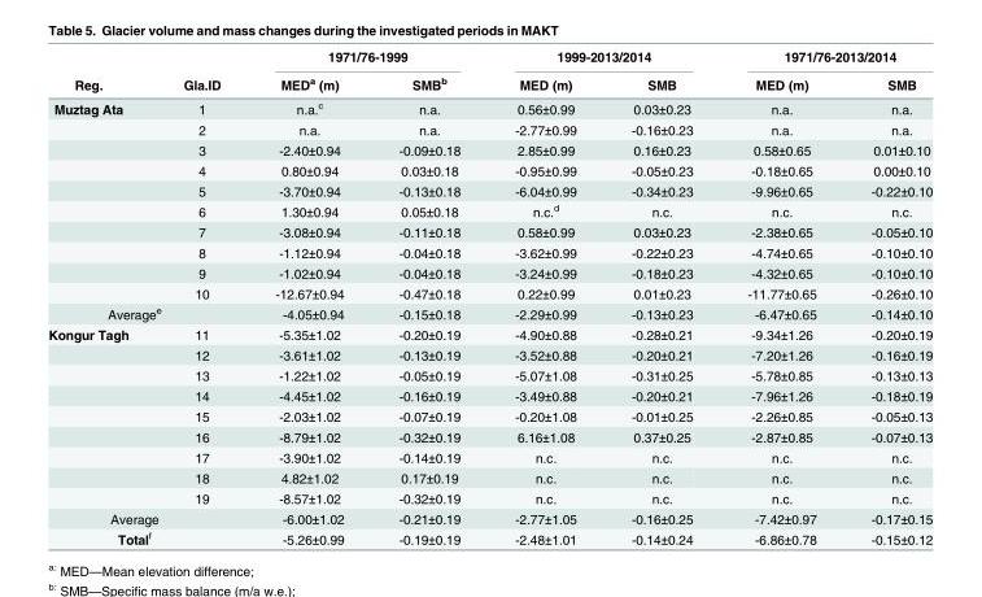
<table><thead><tr><td rowspan="2">Reg.</td><td rowspan="2">Gla.ID</td><td colspan="2">1971/76-1999</td><td colspan="2">1999-2013/2014</td><td colspan="2">1971/76-2013/2014</td></tr><tr><td>MED<sup>a</sup> (m)</td><td>SMB<sup>b</sup></td><td>MED (m)</td><td>SMB</td><td>MED (m)</td><td>SMB</td></tr></thead><tbody><tr><td rowspan="10">Muztag Ata</td><td>1</td><td>n.a.<sup>c</sup></td><td>n.a.</td><td>0.56±0.99</td><td>0.03±0.23</td><td>n.a.</td><td>n.a.</td></tr><tr><td>2</td><td>n.a.</td><td>n.a.</td><td>-2.77±0.99</td><td>-0.16±0.23</td><td>n.a.</td><td>n.a.</td></tr><tr><td>3</td><td>-2.40±0.94</td><td>-0.09±0.18</td><td>2.85±0.99</td><td>0.16±0.23</td><td>0.58±0.65</td><td>0.01±0.10</td></tr><tr><td>4</td><td>0.80±0.94</td><td>0.03±0.18</td><td>-0.95±0.99</td><td>-0.05±0.23</td><td>-0.18±0.65</td><td>0.00±0.10</td></tr><tr><td>5</td><td>-3.70±0.94</td><td>-0.13±0.18</td><td>-6.04±0.99</td><td>-0.34±0.23</td><td>-9.96±0.65</td><td>-0.22±0.10</td></tr><tr><td>6</td><td>1.30±0.94</td><td>0.05±0.18</td><td>n.c.<sup>d</sup></td><td>n.c.</td><td>n.c.</td><td>n.c.</td></tr><tr><td>7</td><td>-3.08±0.94</td><td>-0.11±0.18</td><td>0.58±0.99</td><td>0.03±0.23</td><td>-2.38±0.65</td><td>-0.05±0.10</td></tr><tr><td>8</td><td>-1.12±0.94</td><td>-0.04±0.18</td><td>-3.62±0.99</td><td>-0.22±0.23</td><td>-4.74±0.65</td><td>-0.10±0.10</td></tr><tr><td>9</td><td>-1.02±0.94</td><td>-0.04±0.18</td><td>-3.24±0.99</td><td>-0.18±0.23</td><td>-4.32±0.65</td><td>-0.10±0.10</td></tr><tr><td>10</td><td>-12.67±0.94</td><td>-0.47±0.18</td><td>0.22±0.99</td><td>0.01±0.23</td><td>-11.77±0.65</td><td>-0.26±0.10</td></tr><tr><td colspan="2">Average<sup>e</sup></td><td>-4.05±0.94</td><td>-0.15±0.18</td><td>-2.29±0.99</td><td>-0.13±0.23</td><td>-6.47±0.65</td><td>-0.14±0.10</td></tr><tr><td rowspan="9">Kongur Tagh</td><td>11</td><td>-5.35±1.02</td><td>-0.20±0.19</td><td>-4.90±0.88</td><td>-0.28±0.21</td><td>-9.34±1.26</td><td>-0.20±0.19</td></tr><tr><td>12</td><td>-3.61±1.02</td><td>-0.13±0.19</td><td>-3.52±0.88</td><td>-0.20±0.21</td><td>-7.20±1.26</td><td>-0.16±0.19</td></tr><tr><td>13</td><td>-1.22±1.02</td><td>-0.05±0.19</td><td>-5.07±1.08</td><td>-0.31±0.25</td><td>-5.78±0.85</td><td>-0.13±0.13</td></tr><tr><td>14</td><td>-4.45±1.02</td><td>-0.16±0.19</td><td>-3.49±0.88</td><td>-0.20±0.21</td><td>-7.96±1.26</td><td>-0.18±0.19</td></tr><tr><td>15</td><td>-2.03±1.02</td><td>-0.07±0.19</td><td>-0.20±1.08</td><td>-0.01±0.25</td><td>-2.26±0.85</td><td>-0.05±0.13</td></tr><tr><td>16</td><td>-8.79±1.02</td><td>-0.32±0.19</td><td>6.16±1.08</td><td>0.37±0.25</td><td>-2.87±0.85</td><td>-0.07±0.13</td></tr><tr><td>17</td><td>-3.90±1.02</td><td>-0.14±0.19</td><td>n.c.</td><td>n.c.</td><td>n.c.</td><td>n.c.</td></tr><tr><td>18</td><td>4.82±1.02</td><td>0.17±0.19</td><td>n.c.</td><td>n.c.</td><td>n.c.</td><td>n.c.</td></tr><tr><td>19</td><td>-8.57±1.02</td><td>-0.32±0.19</td><td>n.c.</td><td>n.c.</td><td>n.c.</td><td>n.c.</td></tr><tr><td colspan="2">Average</td><td>-6.00±1.02</td><td>-0.21±0.19</td><td>-2.77±1.05</td><td>-0.16±0.25</td><td>-7.42±0.97</td><td>-0.17±0.15</td></tr><tr><td colspan="2">Total<sup>f</sup></td><td>-5.26±0.99</td><td>-0.19±0.19</td><td>-2.48±1.01</td><td>-0.14±0.24</td><td>-6.86±0.78</td><td>-0.15±0.12</td></tr></tbody></table>